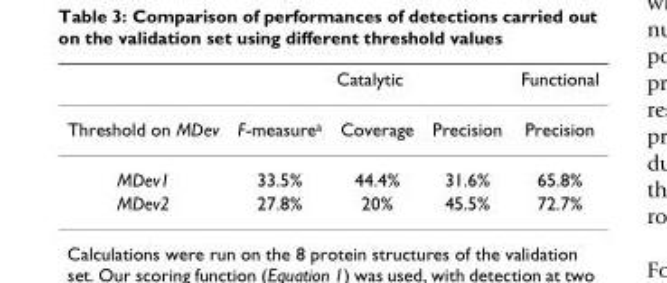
<table><thead><tr><td rowspan="2">Threshold on MDev</td><td colspan="3">Catalytic</td><td rowspan="2">Functional Precision</td></tr><tr><td>F-measurea</td><td>Coverage</td><td>Precision</td></tr></thead><tbody><tr><td>MDev1</td><td>33.5%</td><td>44.4%</td><td>31.6%</td><td>65.8%</td></tr><tr><td>MDev2</td><td>27.8%</td><td>20%</td><td>45.5%</td><td>72.7%</td></tr></tbody></table>